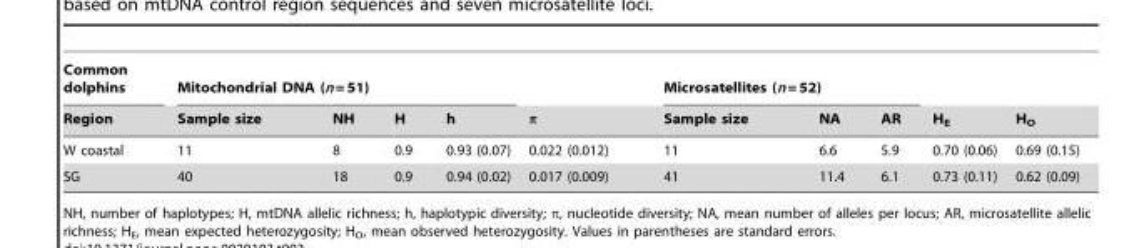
<table><thead><tr><td rowspan="2">Common dolphins Region</td><td colspan="4">Mitochondrial DNA (n = 51)</td><td rowspan="2">π</td><td colspan="3">Microsatellites (n = 52)</td><td rowspan="2">H<sub>E</sub></td><td rowspan="2">H<sub>O</sub></td></tr><tr><td>Sample size</td><td>NH</td><td>H</td><td>h</td><td>Sample size</td><td>NA</td><td>AR</td></tr></thead><tbody><tr><td>W coastal</td><td>11</td><td>8</td><td>0.9</td><td>0.93 (0.07)</td><td>0.022 (0.012)</td><td>11</td><td>6.6</td><td>5.9</td><td>0.70 (0.06)</td><td>0.69 (0.15)</td></tr><tr><td>SG</td><td>40</td><td>18</td><td>0.9</td><td>0.94 (0.02)</td><td>0.017 (0.009)</td><td>41</td><td>11.4</td><td>6.1</td><td>0.73 (0.11)</td><td>0.62 (0.09)</td></tr></tbody></table>